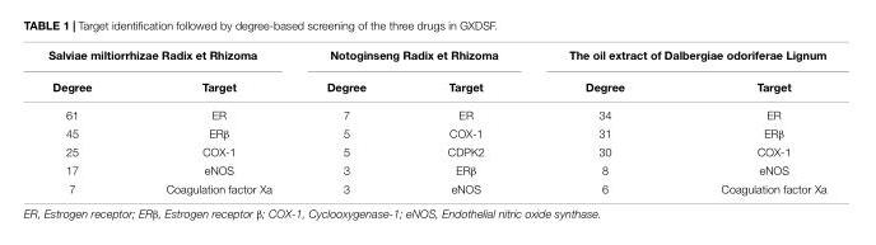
<table><thead><tr><td colspan="2">Salviae miltiorrhizae Radix et Rhizoma</td><td colspan="2">Notoginseng Radix et Rhizoma</td><td colspan="2">The oil extract of Dalbergiae odoriferae Lignum</td></tr><tr><td>Degree</td><td>Target</td><td>Degree</td><td>Target</td><td>Degree</td><td>Target</td></tr></thead><tbody><tr><td>61</td><td>ER</td><td>7</td><td>ER</td><td>34</td><td>ER</td></tr><tr><td>45</td><td>ERβ</td><td>5</td><td>COX-1</td><td>31</td><td>ERβ</td></tr><tr><td>25</td><td>COX-1</td><td>5</td><td>CDPK2</td><td>30</td><td>COX-1</td></tr><tr><td>17</td><td>eNOS</td><td>3</td><td>ERβ</td><td>8</td><td>eNOS</td></tr><tr><td>7</td><td>Coagulation factor Xa</td><td>3</td><td>eNOS</td><td>6</td><td>Coagulation factor Xa</td></tr></tbody></table>